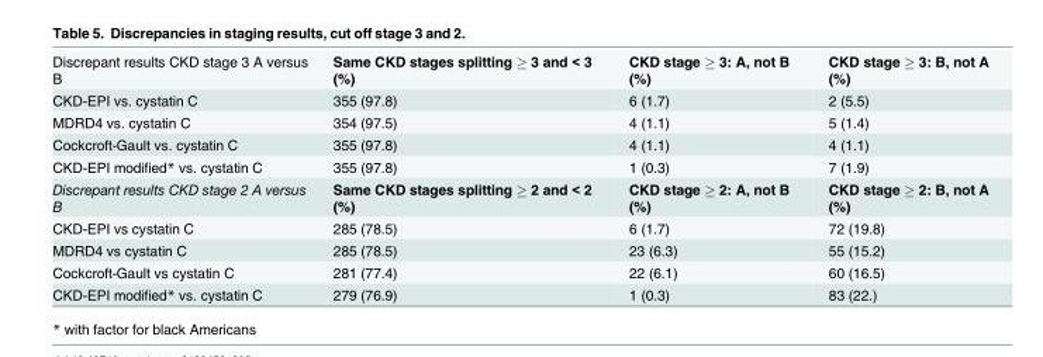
<table><tbody><tr><td>Discrepant results CKD stage 3 A versus B</td><td>Same CKD stages splitting ≥ 3 and &lt; 3 (%)</td><td>CKD stage ≥ 3: A, not B (%)</td><td>CKD stage ≥ 3: B, not A (%)</td></tr><tr><td>CKD-EPI vs. cystatin C</td><td>355 (97.8)</td><td>6 (1.7)</td><td>2 (5.5)</td></tr><tr><td>MDRD4 vs. cystatin C</td><td>354 (97.5)</td><td>4 (1.1)</td><td>5 (1.4)</td></tr><tr><td>Cockcroft-Gault vs. cystatin C</td><td>355 (97.8)</td><td>4 (1.1)</td><td>4 (1.1)</td></tr><tr><td>CKD-EPI modified* vs. cystatin C</td><td>355 (97.8)</td><td>1 (0.3)</td><td>7 (1.9)</td></tr><tr><td>Discrepant results CKD stage 2 A versus B</td><td>Same CKD stages splitting ≥ 2 and &lt; 2 (%)</td><td>CKD stage ≥ 2: A, not B (%)</td><td>CKD stage ≥ 2: B, not A (%)</td></tr><tr><td>CKD-EPI vs cystatin C</td><td>285 (78.5)</td><td>6 (1.7)</td><td>72 (19.8)</td></tr><tr><td>MDRD4 vs cystatin C</td><td>285 (78.5)</td><td>23 (6.3)</td><td>55 (15.2)</td></tr><tr><td>Cockcroft-Gault vs cystatin C</td><td>281 (77.4)</td><td>22 (6.1)</td><td>60 (16.5)</td></tr><tr><td>CKD-EPI modified* vs. cystatin C</td><td>279 (76.9)</td><td>1 (0.3)</td><td>83 (22.)</td></tr></tbody></table>